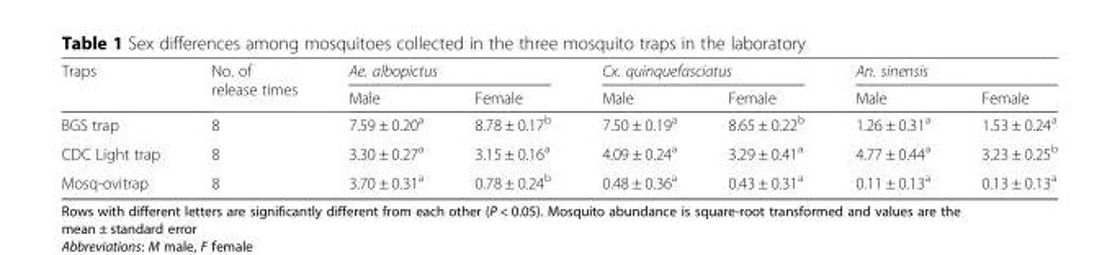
<table><thead><tr><td rowspan="2">Traps</td><td rowspan="2">No. of release times</td><td colspan="2">Ae. albopictus</td><td colspan="2">Cx. quinquefasciatus</td><td colspan="2">An. sinensis</td></tr><tr><td>Male</td><td>Female</td><td>Male</td><td>Female</td><td>Male</td><td>Female</td></tr></thead><tbody><tr><td>BGS trap</td><td>8</td><td>7.59 ± 0.20<sup>a</sup></td><td>8.78 ± 0.17<sup>b</sup></td><td>7.50 ± 0.19<sup>a</sup></td><td>8.65 ± 0.22<sup>b</sup></td><td>1.26 ± 0.31<sup>a</sup></td><td>1.53 ± 0.24<sup>a</sup></td></tr><tr><td>CDC Light trap</td><td>8</td><td>3.30 ± 0.27<sup>a</sup></td><td>3.15 ± 0.16<sup>a</sup></td><td>4.09 ± 0.24<sup>a</sup></td><td>3.29 ± 0.41<sup>a</sup></td><td>4.77 ± 0.44<sup>a</sup></td><td>3.23 ± 0.25<sup>b</sup></td></tr><tr><td>Mosq-ovitrap</td><td>8</td><td>3.70 ± 0.31<sup>a</sup></td><td>0.78 ± 0.24<sup>b</sup></td><td>0.48 ± 0.36<sup>a</sup></td><td>0.43 ± 0.31<sup>a</sup></td><td>0.11 ± 0.13<sup>a</sup></td><td>0.13 ± 0.13<sup>a</sup></td></tr></tbody></table>